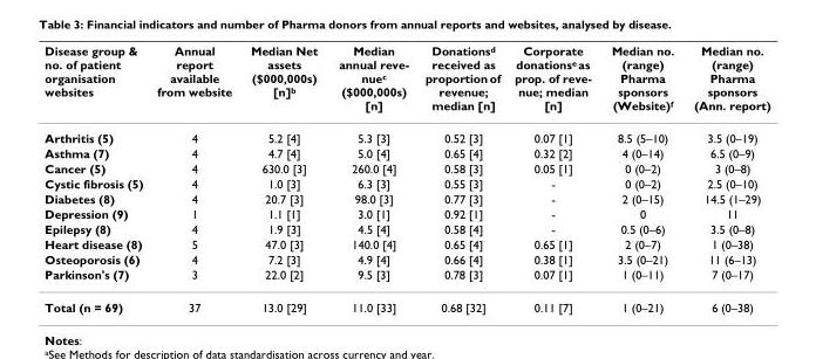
<table><thead><tr><td>Disease group &amp; no. of patient organisation websites</td><td>Annual report available from website</td><td>Median Net assets ($000,000s) [n]b</td><td>Median annual reve- nuec ($000,000s) [n]</td><td>Donationsd received as proportion of revenue; median [n]</td><td>Corporate donationse as prop. of reve- nue; median [n]</td><td>Median no. (range) Pharma sponsors (Website)f</td><td>Median no. (range) Pharma sponsors (Ann. report)</td></tr></thead><tbody><tr><td>Arthritis (5)</td><td>4</td><td>5.2 [4]</td><td>5.3 [3]</td><td>0.52 [3]</td><td>0.07 [1]</td><td>8.5 (5–10)</td><td>3.5 (0–19)</td></tr><tr><td>Asthma (7)</td><td>4</td><td>4.7 [4]</td><td>5.0 [4]</td><td>0.65 [4]</td><td>0.32 [2]</td><td>4 (0–14)</td><td>6.5 (0–9)</td></tr><tr><td>Cancer (5)</td><td>4</td><td>630.0 [3]</td><td>260.0 [4]</td><td>0.58 [3]</td><td>0.05 [1]</td><td>0 (0–2)</td><td>3 (0–8)</td></tr><tr><td>Cystic fibrosis (5)</td><td>4</td><td>1.0 [3]</td><td>6.3 [3]</td><td>0.55 [3]</td><td>-</td><td>0 (0–2)</td><td>2.5 (0–10)</td></tr><tr><td>Diabetes (8)</td><td>4</td><td>20.7 [3]</td><td>98.0 [3]</td><td>0.77 [3]</td><td>-</td><td>2 (0–15)</td><td>14.5 (1–29)</td></tr><tr><td>Depression (9)</td><td>1</td><td>1.1 [1]</td><td>3.0 [1]</td><td>0.92 [1]</td><td>-</td><td>0</td><td>11</td></tr><tr><td>Epilepsy (8)</td><td>4</td><td>1.9 [3]</td><td>4.5 [4]</td><td>0.58 [4]</td><td>-</td><td>0.5 (0–6)</td><td>3.5 (0–8)</td></tr><tr><td>Heart disease (8)</td><td>5</td><td>47.0 [3]</td><td>140.0 [4]</td><td>0.65 [4]</td><td>0.65 [1]</td><td>2 (0–7)</td><td>1 (0–38)</td></tr><tr><td>Osteoporosis (6)</td><td>4</td><td>7.2 [3]</td><td>4.9 [4]</td><td>0.66 [4]</td><td>0.38 [1]</td><td>3.5 (0–21)</td><td>11 (6–13)</td></tr><tr><td>Parkinson&#x27;s (7)</td><td>3</td><td>22.0 [2]</td><td>9.5 [3]</td><td>0.78 [3]</td><td>0.07 [1]</td><td>1 (0–11)</td><td>7 (0–17)</td></tr><tr><td>Total (n = 69)</td><td>37</td><td>13.0 [29]</td><td>11.0 [33]</td><td>0.68 [32]</td><td>0.11 [7]</td><td>1 (0–21)</td><td>6 (0–38)</td></tr></tbody></table>